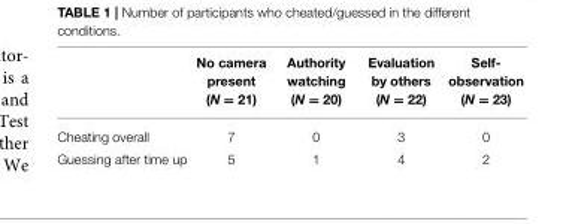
<table><thead><tr><td></td><td>No camera present (N = 21)</td><td>Authority watching (N = 20)</td><td>Evaluation by others (N = 22)</td><td>Self- observation (N = 23)</td></tr></thead><tbody><tr><td>Cheating overall</td><td>7</td><td>0</td><td>3</td><td>0</td></tr><tr><td>Guessing after time up</td><td>5</td><td>1</td><td>4</td><td>2</td></tr></tbody></table>